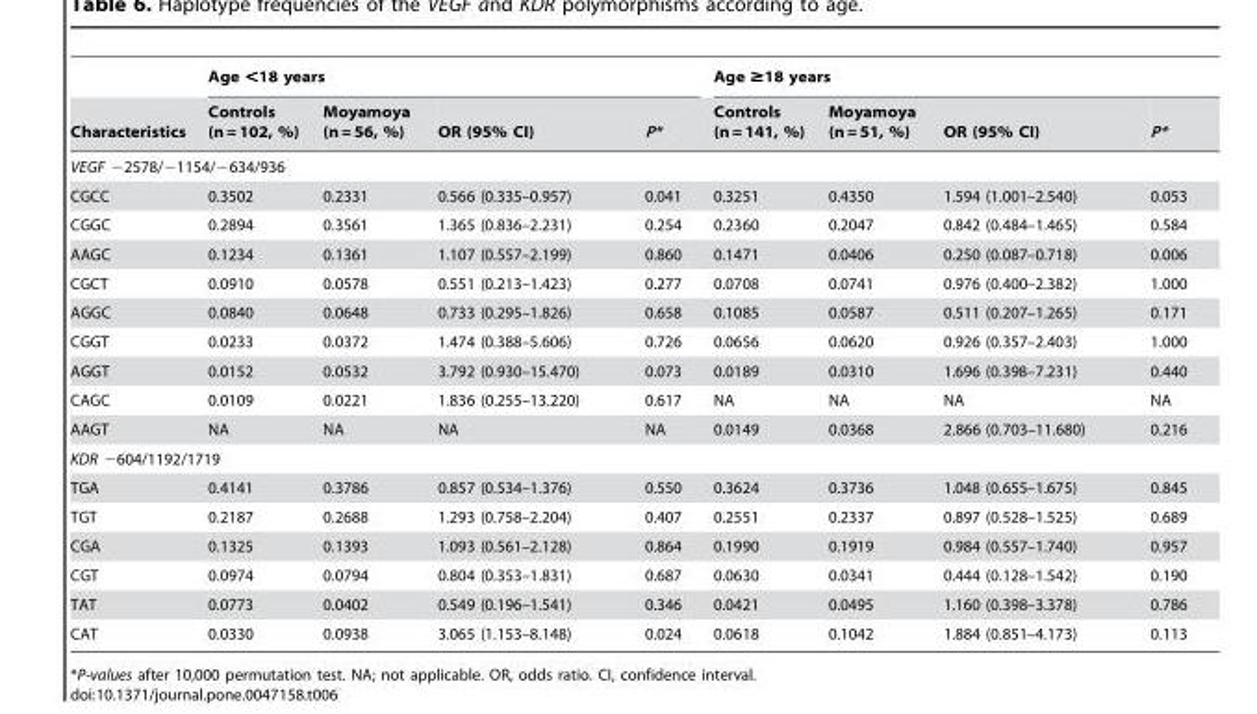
<table><thead><tr><td rowspan="2">Characteristics</td><td colspan="4">Age &lt;18 years</td><td colspan="4">Age ≥18 years</td></tr><tr><td>Controls (n = 102, %)</td><td>Moyamoya (n = 56, %)</td><td>OR (95% CI)</td><td>P*</td><td>Controls (n = 141, %)</td><td>Moyamoya (n = 51, %)</td><td>OR (95% CI)</td><td>P*</td></tr></thead><tbody><tr><td colspan="9">VEGF −2578/−1154/−634/936</td></tr><tr><td>CGCC</td><td>0.3502</td><td>0.2331</td><td>0.566 (0.335–0.957)</td><td>0.041</td><td>0.3251</td><td>0.4350</td><td>1.594 (1.001–2.540)</td><td>0.053</td></tr><tr><td>CGGC</td><td>0.2894</td><td>0.3561</td><td>1.365 (0.836–2.231)</td><td>0.254</td><td>0.2360</td><td>0.2047</td><td>0.842 (0.484–1.465)</td><td>0.584</td></tr><tr><td>AAGC</td><td>0.1234</td><td>0.1361</td><td>1.107 (0.557–2.199)</td><td>0.860</td><td>0.1471</td><td>0.0406</td><td>0.250 (0.087–0.718)</td><td>0.006</td></tr><tr><td>CGCT</td><td>0.0910</td><td>0.0578</td><td>0.551 (0.213–1.423)</td><td>0.277</td><td>0.0708</td><td>0.0741</td><td>0.976 (0.400–2.382)</td><td>1.000</td></tr><tr><td>AGGC</td><td>0.0840</td><td>0.0648</td><td>0.733 (0.295–1.826)</td><td>0.658</td><td>0.1085</td><td>0.0587</td><td>0.511 (0.207–1.265)</td><td>0.171</td></tr><tr><td>CGGT</td><td>0.0233</td><td>0.0372</td><td>1.474 (0.388–5.606)</td><td>0.726</td><td>0.0656</td><td>0.0620</td><td>0.926 (0.357–2.403)</td><td>1.000</td></tr><tr><td>AGGT</td><td>0.0152</td><td>0.0532</td><td>3.792 (0.930–15.470)</td><td>0.073</td><td>0.0189</td><td>0.0310</td><td>1.696 (0.398–7.231)</td><td>0.440</td></tr><tr><td>CAGC</td><td>0.0109</td><td>0.0221</td><td>1.836 (0.255–13.220)</td><td>0.617</td><td>NA</td><td>NA</td><td>NA</td><td>NA</td></tr><tr><td>AAGT</td><td>NA</td><td>NA</td><td>NA</td><td>NA</td><td>0.0149</td><td>0.0368</td><td>2.866 (0.703–11.680)</td><td>0.216</td></tr><tr><td colspan="9">KDR −604/1192/1719</td></tr><tr><td>TGA</td><td>0.4141</td><td>0.3786</td><td>0.857 (0.534–1.376)</td><td>0.550</td><td>0.3624</td><td>0.3736</td><td>1.048 (0.655–1.675)</td><td>0.845</td></tr><tr><td>TGT</td><td>0.2187</td><td>0.2688</td><td>1.293 (0.758–2.204)</td><td>0.407</td><td>0.2551</td><td>0.2337</td><td>0.897 (0.528–1.525)</td><td>0.689</td></tr><tr><td>CGA</td><td>0.1325</td><td>0.1393</td><td>1.093 (0.561–2.128)</td><td>0.864</td><td>0.1990</td><td>0.1919</td><td>0.984 (0.557–1.740)</td><td>0.957</td></tr><tr><td>CGT</td><td>0.0974</td><td>0.0794</td><td>0.804 (0.353–1.831)</td><td>0.687</td><td>0.0630</td><td>0.0341</td><td>0.444 (0.128–1.542)</td><td>0.190</td></tr><tr><td>TAT</td><td>0.0773</td><td>0.0402</td><td>0.549 (0.196–1.541)</td><td>0.346</td><td>0.0421</td><td>0.0495</td><td>1.160 (0.398–3.378)</td><td>0.786</td></tr><tr><td>CAT</td><td>0.0330</td><td>0.0938</td><td>3.065 (1.153–8.148)</td><td>0.024</td><td>0.0618</td><td>0.1042</td><td>1.884 (0.851–4.173)</td><td>0.113</td></tr></tbody></table>